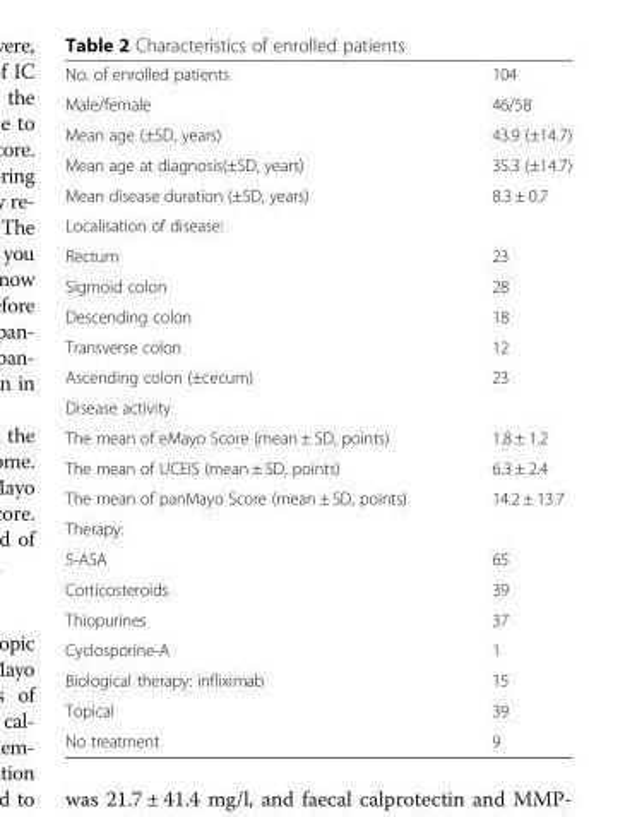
<table><tbody><tr><td>No. of enrolled patients</td><td>104</td></tr><tr><td>Male/female</td><td>46/58</td></tr><tr><td>Mean age (±SD, years)</td><td>43.9 (±14.7)</td></tr><tr><td>Mean age at diagnosis(±SD, years)</td><td>35.3 (±14.7)</td></tr><tr><td>Mean disease duration (±SD, years)</td><td>8.3 ± 0.7</td></tr><tr><td colspan="2">Localisation of disease:</td></tr><tr><td>Rectum</td><td>23</td></tr><tr><td>Sigmoid colon</td><td>28</td></tr><tr><td>Descending colon</td><td>18</td></tr><tr><td>Transverse colon</td><td>12</td></tr><tr><td>Ascending colon (±cecum)</td><td>23</td></tr><tr><td colspan="2">Disease activity</td></tr><tr><td>The mean of eMayo Score (mean ± SD, points)</td><td>1.8 ± 1.2</td></tr><tr><td>The mean of UCEIS (mean ± SD, points)</td><td>6.3 ± 2.4</td></tr><tr><td>The mean of panMayo Score (mean ± SD, points)</td><td>14.2 ± 13.7</td></tr><tr><td colspan="2">Therapy:</td></tr><tr><td>5-ASA</td><td>65</td></tr><tr><td>Corticosteroids</td><td>39</td></tr><tr><td>Thiopurines</td><td>37</td></tr><tr><td>Cyclosporine-A</td><td>1</td></tr><tr><td>Biological therapy: infliximab</td><td>15</td></tr><tr><td>Topical</td><td>39</td></tr><tr><td>No treatment</td><td>9</td></tr></tbody></table>